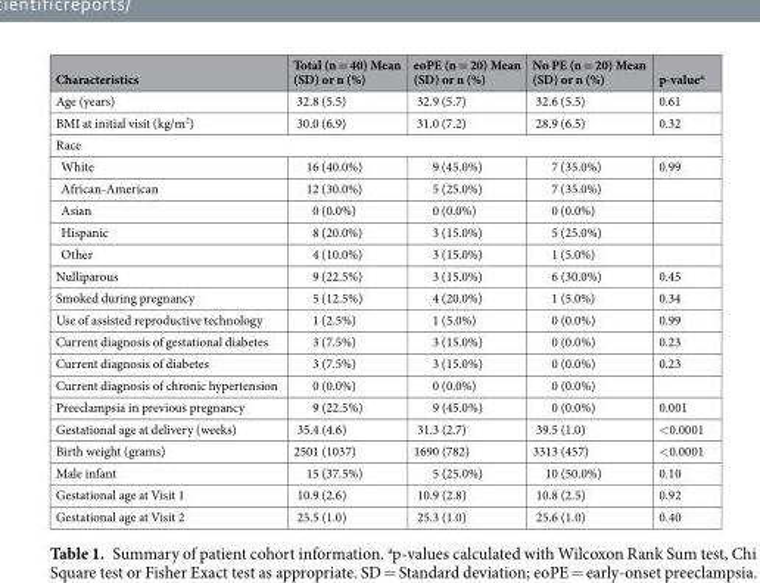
<table><thead><tr><td>Characteristics</td><td>Total (n = 40) Mean (SD) or n (%)</td><td>eoPE (n = 20) Mean (SD) or n (%)</td><td>No PE (n = 20) Mean (SD) or n (%)</td><td>p-value<sup>a</sup></td></tr></thead><tbody><tr><td>Age (years)</td><td>32.8 (5.5)</td><td>32.9 (5.7)</td><td>32.6 (5.5)</td><td>0.61</td></tr><tr><td>BMI at initial visit (kg/m<sup>2</sup>)</td><td>30.0 (6.9)</td><td>31.0 (7.2)</td><td>28.9 (6.5)</td><td>0.32</td></tr><tr><td colspan="5">Race</td></tr><tr><td>White</td><td>16 (40.0%)</td><td>9 (45.0%)</td><td>7 (35.0%)</td><td>0.99</td></tr><tr><td>African-American</td><td>12 (30.0%)</td><td>5 (25.0%)</td><td>7 (35.0%)</td><td></td></tr><tr><td>Asian</td><td>0 (0.0%)</td><td>0 (0.0%)</td><td>0 (0.0%)</td><td></td></tr><tr><td>Hispanic</td><td>8 (20.0%)</td><td>3 (15.0%)</td><td>5 (25.0%)</td><td></td></tr><tr><td>Other</td><td>4 (10.0%)</td><td>3 (15.0%)</td><td>1 (5.0%)</td><td></td></tr><tr><td>Nulliparous</td><td>9 (22.5%)</td><td>3 (15.0%)</td><td>6 (30.0%)</td><td>0.45</td></tr><tr><td>Smoked during pregnancy</td><td>5 (12.5%)</td><td>4 (20.0%)</td><td>1 (5.0%)</td><td>0.34</td></tr><tr><td>Use of assisted reproductive technology</td><td>1 (2.5%)</td><td>1 (5.0%)</td><td>0 (0.0%)</td><td>0.99</td></tr><tr><td>Current diagnosis of gestational diabetes</td><td>3 (7.5%)</td><td>3 (15.0%)</td><td>0 (0.0%)</td><td>0.23</td></tr><tr><td>Current diagnosis of diabetes</td><td>3 (7.5%)</td><td>3 (15.0%)</td><td>0 (0.0%)</td><td>0.23</td></tr><tr><td>Current diagnosis of chronic hypertension</td><td>0 (0.0%)</td><td>0 (0.0%)</td><td>0 (0.0%)</td><td></td></tr><tr><td>Preeclampsia in previous pregnancy</td><td>9 (22.5%)</td><td>9 (45.0%)</td><td>0 (0.0%)</td><td>0.001</td></tr><tr><td>Gestational age at delivery (weeks)</td><td>35.4 (4.6)</td><td>31.3 (2.7)</td><td>39.5 (1.0)</td><td>&lt;0.0001</td></tr><tr><td>Birth weight (grams)</td><td>2501 (1037)</td><td>1690 (782)</td><td>3313 (457)</td><td>&lt;0.0001</td></tr><tr><td>Male infant</td><td>15 (37.5%)</td><td>5 (25.0%)</td><td>10 (50.0%)</td><td>0.10</td></tr><tr><td>Gestational age at Visit 1</td><td>10.9 (2.6)</td><td>10.9 (2.8)</td><td>10.8 (2.5)</td><td>0.92</td></tr><tr><td>Gestational age at Visit 2</td><td>25.5 (1.0)</td><td>25.3 (1.0)</td><td>25.6 (1.0)</td><td>0.40</td></tr></tbody></table>